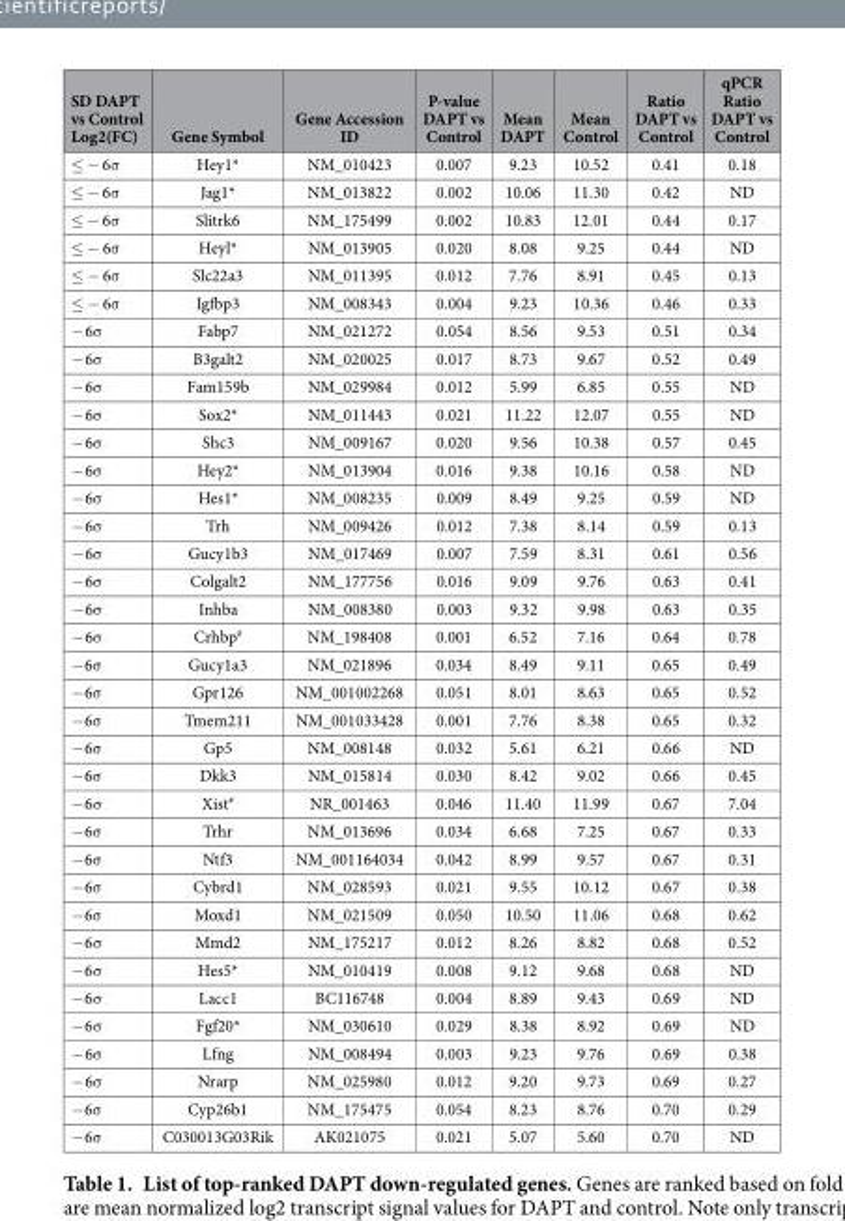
<table><thead><tr><td>SD DAPT vs Control Log2(FC)</td><td>Gene Symbol</td><td>Gene Accession ID</td><td>P-value DAPT vs Control</td><td>Mean DAPT</td><td>Mean Control</td><td>Ratio DAPT vs Control</td><td>qPCR Ratio DAPT vs Control</td></tr></thead><tbody><tr><td>≤ − 6σ</td><td>Hey1*</td><td>NM_010423</td><td>0.007</td><td>9.23</td><td>10.52</td><td>0.41</td><td>0.18</td></tr><tr><td>≤ − 6σ</td><td>Jag1*</td><td>NM_013822</td><td>0.002</td><td>10.06</td><td>11.30</td><td>0.42</td><td>ND</td></tr><tr><td>≤ − 6σ</td><td>Slitrk6</td><td>NM_175499</td><td>0.002</td><td>10.83</td><td>12.01</td><td>0.44</td><td>0.17</td></tr><tr><td>≤ − 6σ</td><td>Heyl*</td><td>NM_013905</td><td>0.020</td><td>8.08</td><td>9.25</td><td>0.44</td><td>ND</td></tr><tr><td>≤ − 6σ</td><td>Slc22a3</td><td>NM_011395</td><td>0.012</td><td>7.76</td><td>8.91</td><td>0.45</td><td>0.13</td></tr><tr><td>≤ − 6σ</td><td>Igfbp3</td><td>NM_008343</td><td>0.004</td><td>9.23</td><td>10.36</td><td>0.46</td><td>0.33</td></tr><tr><td>− 6σ</td><td>Fabp7</td><td>NM_021272</td><td>0.054</td><td>8.56</td><td>9.53</td><td>0.51</td><td>0.34</td></tr><tr><td>− 6σ</td><td>B3galt2</td><td>NM_020025</td><td>0.017</td><td>8.73</td><td>9.67</td><td>0.52</td><td>0.49</td></tr><tr><td>− 6σ</td><td>Fam159b</td><td>NM_029984</td><td>0.012</td><td>5.99</td><td>6.85</td><td>0.55</td><td>ND</td></tr><tr><td>− 6σ</td><td>Sox2*</td><td>NM_011443</td><td>0.021</td><td>11.22</td><td>12.07</td><td>0.55</td><td>ND</td></tr><tr><td>− 6σ</td><td>Shc3</td><td>NM_009167</td><td>0.020</td><td>9.56</td><td>10.38</td><td>0.57</td><td>0.45</td></tr><tr><td>− 6σ</td><td>Hey2*</td><td>NM_013904</td><td>0.016</td><td>9.38</td><td>10.16</td><td>0.58</td><td>ND</td></tr><tr><td>− 6σ</td><td>Hes1*</td><td>NM_008235</td><td>0.009</td><td>8.49</td><td>9.25</td><td>0.59</td><td>ND</td></tr><tr><td>− 6σ</td><td>Trh</td><td>NM_009426</td><td>0.012</td><td>7.38</td><td>8.14</td><td>0.59</td><td>0.13</td></tr><tr><td>− 6σ</td><td>Gucy1b3</td><td>NM_017469</td><td>0.007</td><td>7.59</td><td>8.31</td><td>0.61</td><td>0.56</td></tr><tr><td>− 6σ</td><td>Colgalt2</td><td>NM_177756</td><td>0.016</td><td>9.09</td><td>9.76</td><td>0.63</td><td>0.41</td></tr><tr><td>− 6σ</td><td>Inhba</td><td>NM_008380</td><td>0.003</td><td>9.32</td><td>9.98</td><td>0.63</td><td>0.35</td></tr><tr><td>− 6σ</td><td>Crhbp<sup>#</sup></td><td>NM_198408</td><td>0.001</td><td>6.52</td><td>7.16</td><td>0.64</td><td>0.78</td></tr><tr><td>− 6σ</td><td>Gucy1a3</td><td>NM_021896</td><td>0.034</td><td>8.49</td><td>9.11</td><td>0.65</td><td>0.49</td></tr><tr><td>− 6σ</td><td>Gpr126</td><td>NM_001002268</td><td>0.051</td><td>8.01</td><td>8.63</td><td>0.65</td><td>0.52</td></tr><tr><td>− 6σ</td><td>Tmem211</td><td>NM_001033428</td><td>0.001</td><td>7.76</td><td>8.38</td><td>0.65</td><td>0.32</td></tr><tr><td>− 6σ</td><td>Gp5</td><td>NM_008148</td><td>0.032</td><td>5.61</td><td>6.21</td><td>0.66</td><td>ND</td></tr><tr><td>− 6σ</td><td>Dkk3</td><td>NM_015814</td><td>0.030</td><td>8.42</td><td>9.02</td><td>0.66</td><td>0.45</td></tr><tr><td>− 6σ</td><td>Xist<sup>#</sup></td><td>NR_001463</td><td>0.046</td><td>11.40</td><td>11.99</td><td>0.67</td><td>7.04</td></tr><tr><td>− 6σ</td><td>Trhr</td><td>NM_013696</td><td>0.034</td><td>6.68</td><td>7.25</td><td>0.67</td><td>0.33</td></tr><tr><td>− 6σ</td><td>Ntf3</td><td>NM_001164034</td><td>0.042</td><td>8.99</td><td>9.57</td><td>0.67</td><td>0.31</td></tr><tr><td>− 6σ</td><td>Cybrd1</td><td>NM_028593</td><td>0.021</td><td>9.55</td><td>10.12</td><td>0.67</td><td>0.38</td></tr><tr><td>− 6σ</td><td>Moxd1</td><td>NM_021509</td><td>0.050</td><td>10.50</td><td>11.06</td><td>0.68</td><td>0.62</td></tr><tr><td>− 6σ</td><td>Mmd2</td><td>NM_175217</td><td>0.012</td><td>8.26</td><td>8.82</td><td>0.68</td><td>0.52</td></tr><tr><td>− 6σ</td><td>Hes5*</td><td>NM_010419</td><td>0.008</td><td>9.12</td><td>9.68</td><td>0.68</td><td>ND</td></tr><tr><td>− 6σ</td><td>Lacc1</td><td>BC116748</td><td>0.004</td><td>8.89</td><td>9.43</td><td>0.69</td><td>ND</td></tr><tr><td>− 6σ</td><td>Fgf20*</td><td>NM_030610</td><td>0.029</td><td>8.38</td><td>8.92</td><td>0.69</td><td>ND</td></tr><tr><td>− 6σ</td><td>Lfng</td><td>NM_008494</td><td>0.003</td><td>9.23</td><td>9.76</td><td>0.69</td><td>0.38</td></tr><tr><td>− 6σ</td><td>Nrarp</td><td>NM_025980</td><td>0.012</td><td>9.20</td><td>9.73</td><td>0.69</td><td>0.27</td></tr><tr><td>− 6σ</td><td>Cyp26b1</td><td>NM_175475</td><td>0.054</td><td>8.23</td><td>8.76</td><td>0.70</td><td>0.29</td></tr><tr><td>− 6σ</td><td>C030013G03Rik</td><td>AK021075</td><td>0.021</td><td>5.07</td><td>5.60</td><td>0.70</td><td>ND</td></tr></tbody></table>